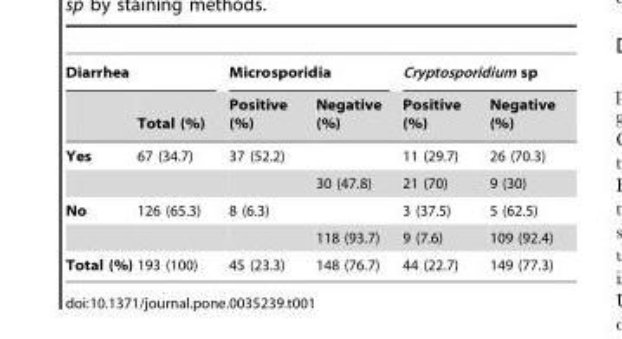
<table><thead><tr><td colspan="2">Diarrhea</td><td colspan="2">Microsporidia</td><td colspan="2">Cryptosporidium sp</td></tr><tr><td></td><td>Total (%)</td><td>Positive (%)</td><td>Negative (%)</td><td>Positive (%)</td><td>Negative (%)</td></tr></thead><tbody><tr><td rowspan="2">Yes</td><td>67 (34.7)</td><td>37 (52.2)</td><td></td><td>11 (29.7)</td><td>26 (70.3)</td></tr><tr><td></td><td></td><td>30 (47.8)</td><td>21 (70)</td><td>9 (30)</td></tr><tr><td rowspan="2">No</td><td>126 (65.3)</td><td>8 (6.3)</td><td></td><td>3 (37.5)</td><td>5 (62.5)</td></tr><tr><td></td><td></td><td>118 (93.7)</td><td>9 (7.6)</td><td>109 (92.4)</td></tr><tr><td>Total (%)</td><td>193 (100)</td><td>45 (23.3)</td><td>148 (76.7)</td><td>44 (22.7)</td><td>149 (77.3)</td></tr></tbody></table>